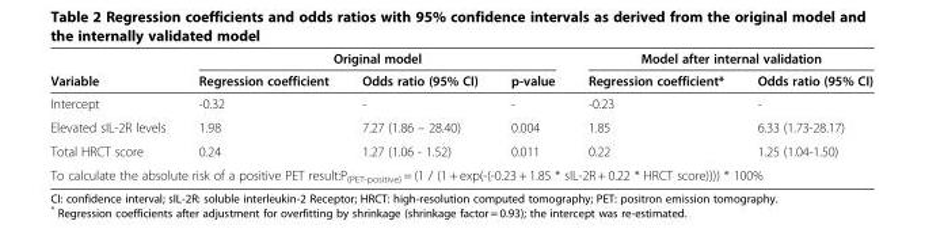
<table><thead><tr><td rowspan="2">Variable</td><td colspan="3">Original model</td><td colspan="2">Model after internal validation</td></tr><tr><td>Regression coefficient</td><td>Odds ratio (95% CI)</td><td>p-value</td><td>Regression coefficient*</td><td>Odds ratio (95% CI)</td></tr></thead><tbody><tr><td>Intercept</td><td>-0.32</td><td>-</td><td>-</td><td>-0.23</td><td>-</td></tr><tr><td>Elevated sIL-2R levels</td><td>1.98</td><td>7.27 (1.86 – 28.40)</td><td>0.004</td><td>1.85</td><td>6.33 (1.73-28.17)</td></tr><tr><td>Total HRCT score</td><td>0.24</td><td>1.27 (1.06 - 1.52)</td><td>0.011</td><td>0.22</td><td>1.25 (1.04-1.50)</td></tr><tr><td colspan="6">To calculate the absolute risk of a positive PET result:P<sub>(PET-positive)</sub> = (1 / (1 + exp(-(-0.23 + 1.85 * sIL-2R + 0.22 * HRCT score)))) * 100%</td></tr></tbody></table>